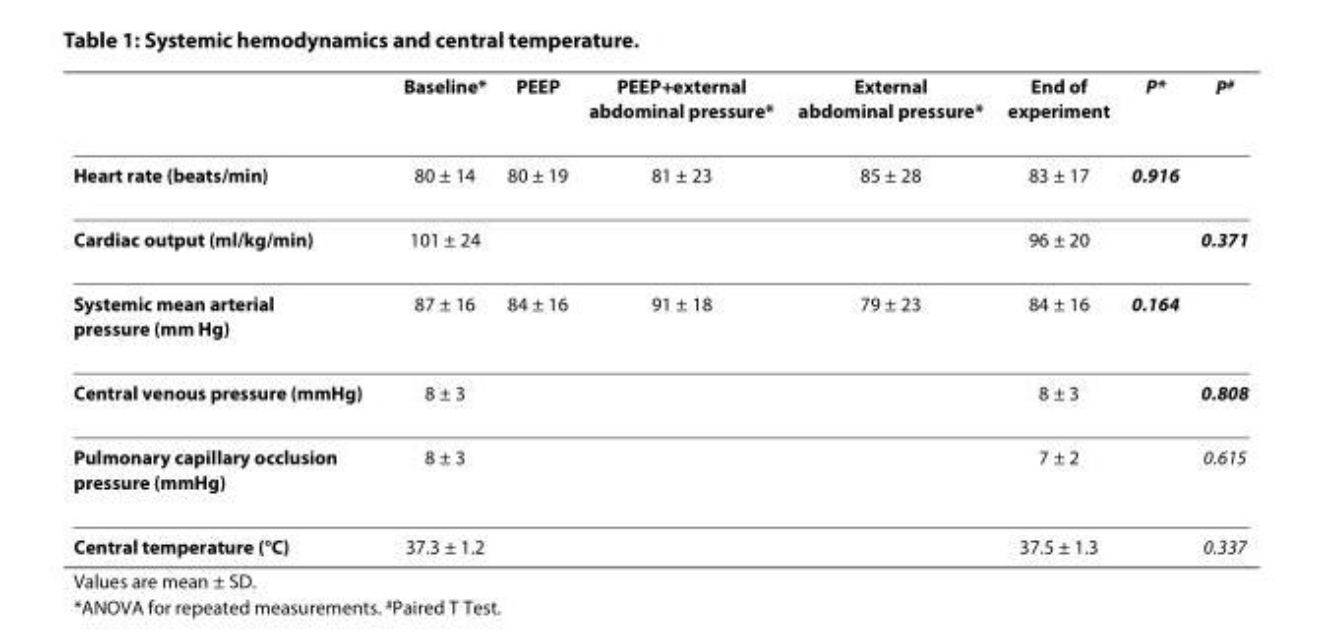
<table><thead><tr><td></td><td>Baseline*</td><td>PEEP</td><td>PEEP+external abdominal pressure*</td><td>External abdominal pressure*</td><td>End of experiment</td><td>P*</td><td>P<sup>#</sup></td></tr></thead><tbody><tr><td>Heart rate (beats/min)</td><td>80 ± 14</td><td>80 ± 19</td><td>81 ± 23</td><td>85 ± 28</td><td>83 ± 17</td><td>0.916</td><td></td></tr><tr><td>Cardiac output (ml/kg/min)</td><td>101 ± 24</td><td></td><td></td><td></td><td>96 ± 20</td><td></td><td>0.371</td></tr><tr><td>Systemic mean arterial pressure (mm Hg)</td><td>87 ± 16</td><td>84 ± 16</td><td>91 ± 18</td><td>79 ± 23</td><td>84 ± 16</td><td>0.164</td><td></td></tr><tr><td>Central venous pressure (mmHg)</td><td>8 ± 3</td><td></td><td></td><td></td><td>8 ± 3</td><td></td><td>0.808</td></tr><tr><td>Pulmonary capillary occlusion pressure (mmHg)</td><td>8 ± 3</td><td></td><td></td><td></td><td>7 ± 2</td><td></td><td>0.615</td></tr><tr><td>Central temperature (°C)</td><td>37.3 ± 1.2</td><td></td><td></td><td></td><td>37.5 ± 1.3</td><td></td><td>0.337</td></tr></tbody></table>